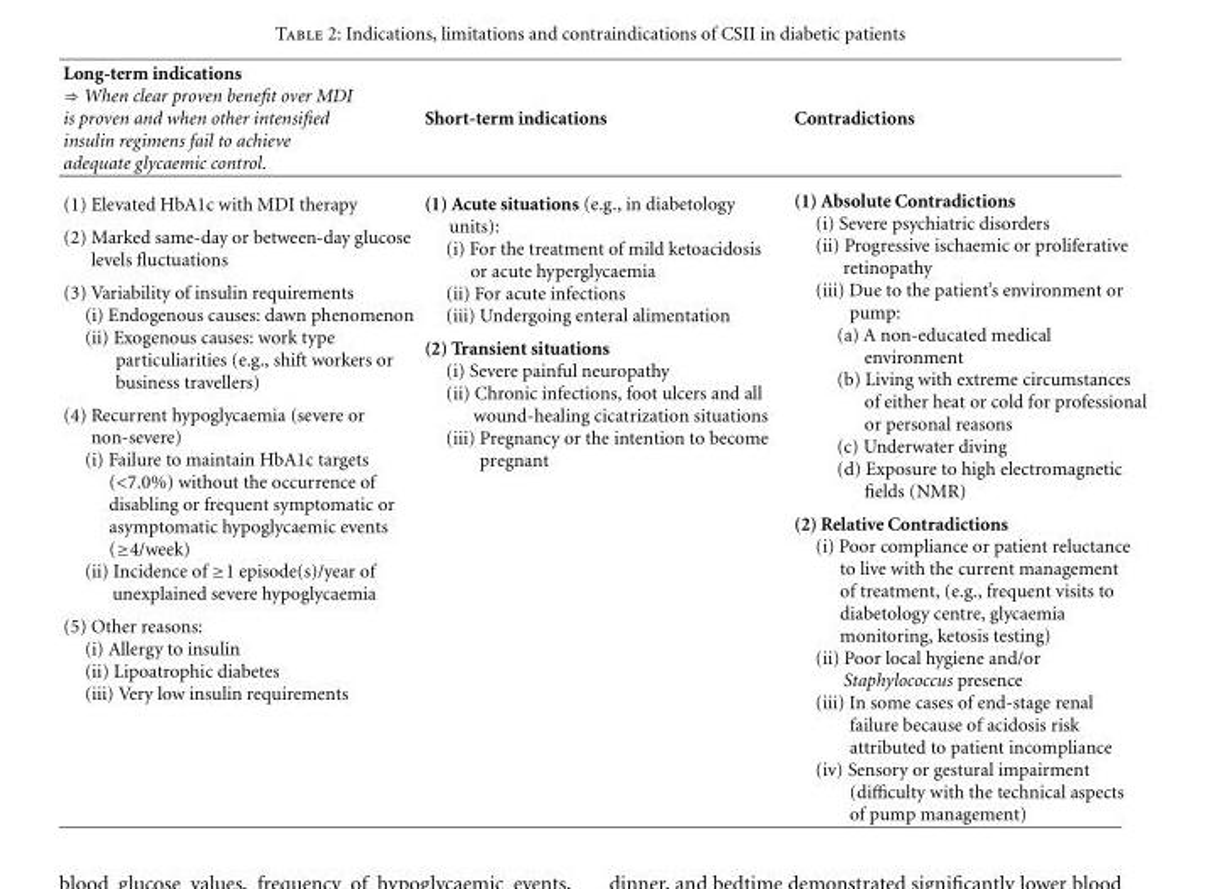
<table><thead><tr><td>Long-term indications ⇒ When clear proven benefit over MDI is proven and when other intensified insulin regimens fail to achieve adequate glycaemic control.</td><td>Short-term indications</td><td>Contradictions</td></tr></thead><tbody><tr><td>(1) Elevated HbA1c with MDI therapy (2) Marked same-day or between-day glucose levels fluctuations (3) Variability of insulin requirements (i) Endogenous causes: dawn phenomenon (ii) Exogenous causes: work type particuliarities (e.g., shift workers or business travellers) (4) Recurrent hypoglycaemia (severe or non-severe) (i) Failure to maintain HbA1c targets (&lt;7.0%) without the occurrence of disabling or frequent symptomatic or asymptomatic hypoglycaemic events (≥4/week) (ii) Incidence of ≥1 episode(s)/year of unexplained severe hypoglycaemia (5) Other reasons: (i) Allergy to insulin (ii) Lipoatrophic diabetes (iii) Very low insulin requirements</td><td>(1) Acute situations (e.g., in diabetology units): (i) For the treatment of mild ketoacidosis or acute hyperglycaemia (ii) For acute infections (iii) Undergoing enteral alimentation (2) Transient situations (i) Severe painful neuropathy (ii) Chronic infections, foot ulcers and all wound-healing cicatrization situations (iii) Pregnancy or the intention to become pregnant</td><td>(1) Absolute Contradictions (i) Severe psychiatric disorders (ii) Progressive ischaemic or proliferative retinopathy (iii) Due to the patient’s environment or pump: (a) A non-educated medical environment (b) Living with extreme circumstances of either heat or cold for professional or personal reasons (c) Underwater diving (d) Exposure to high electromagnetic fields (NMR) (2) Relative Contradictions (i) Poor compliance or patient reluctance to live with the current management of treatment, (e.g., frequent visits to diabetology centre, glycaemia monitoring, ketosis testing) (ii) Poor local hygiene and/or Staphylococcus presence (iii) In some cases of end-stage renal failure because of acidosis risk attributed to patient incompliance (iv) Sensory or gestural impairment (difficulty with the technical aspects of pump management)</td></tr></tbody></table>